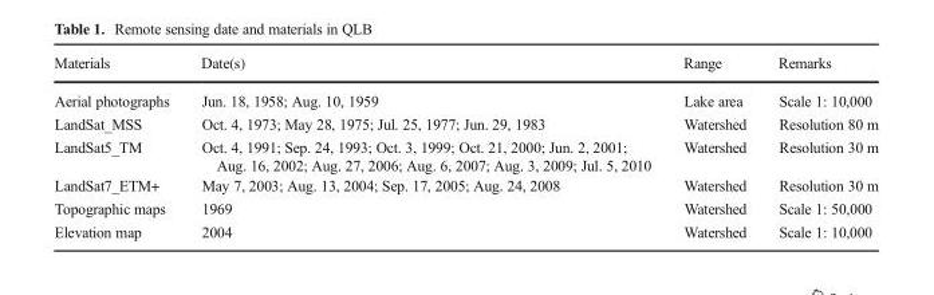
<table><thead><tr><td>Materials</td><td>Date(s)</td><td>Range</td><td>Remarks</td></tr></thead><tbody><tr><td>Aerial photographs</td><td>Jun. 18, 1958; Aug. 10, 1959</td><td>Lake area</td><td>Scale 1: 10,000</td></tr><tr><td>LandSat_MSS</td><td>Oct. 4, 1973; May 28, 1975; Jul. 25, 1977; Jun. 29, 1983</td><td>Watershed</td><td>Resolution 80 m</td></tr><tr><td>LandSat5_TM</td><td>Oct. 4, 1991; Sep. 24, 1993; Oct. 3, 1999; Oct. 21, 2000; Jun. 2, 2001; Aug. 16, 2002; Aug. 27, 2006; Aug. 6, 2007; Aug. 3, 2009; Jul. 5, 2010</td><td>Watershed</td><td>Resolution 30 m</td></tr><tr><td>LandSat7_ETM+</td><td>May 7, 2003; Aug. 13, 2004; Sep. 17, 2005; Aug. 24, 2008</td><td>Watershed</td><td>Resolution 30 m</td></tr><tr><td>Topographic maps</td><td>1969</td><td>Watershed</td><td>Scale 1: 50,000</td></tr><tr><td>Elevation map</td><td>2004</td><td>Watershed</td><td>Scale 1: 10,000</td></tr></tbody></table>